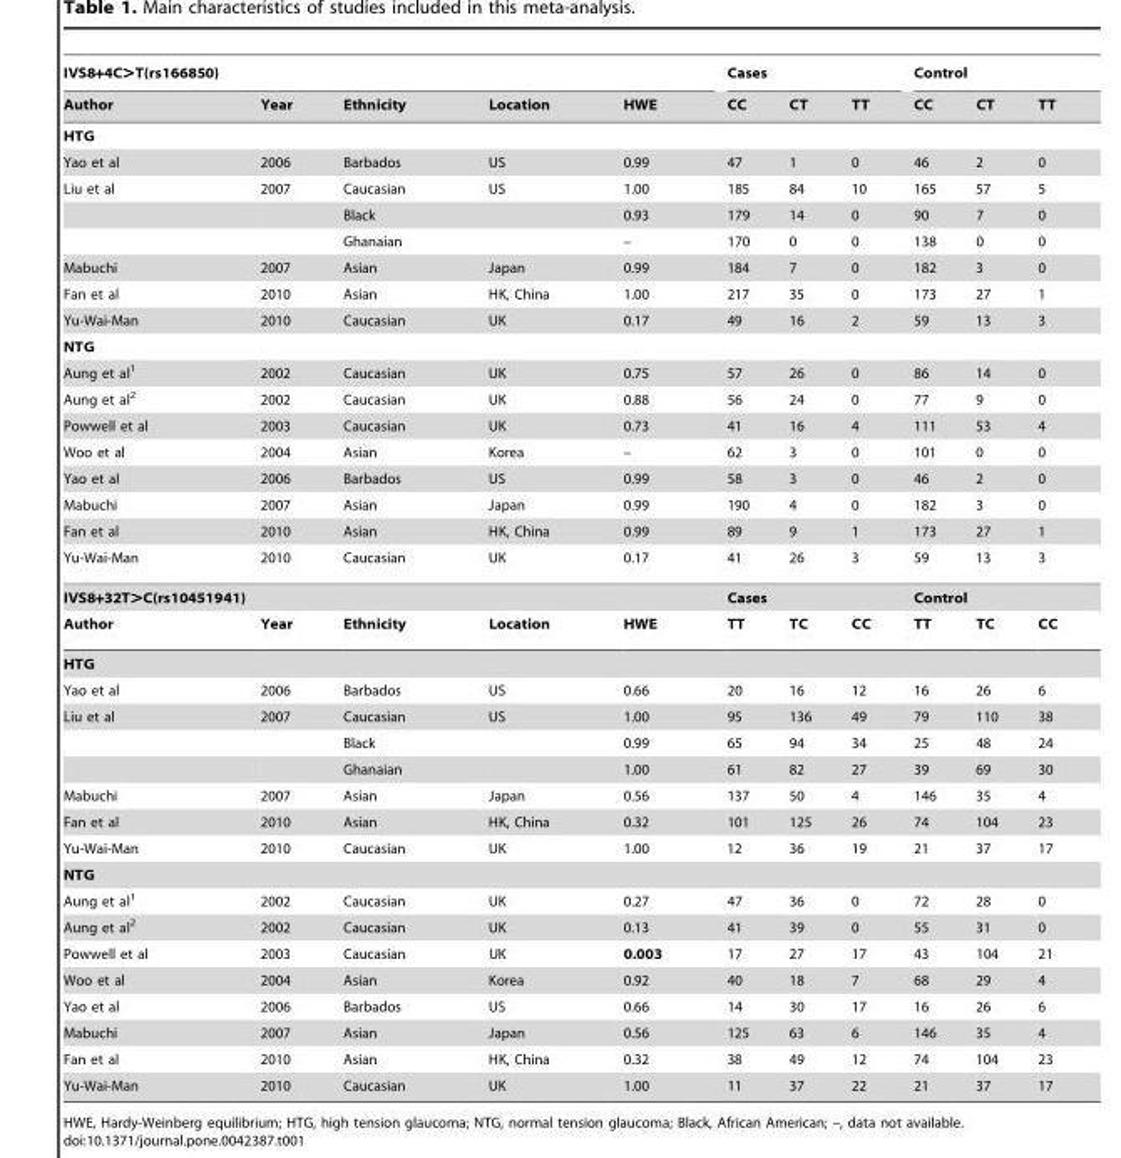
<table><thead><tr><td colspan="5">IVS8+4C&gt;T(rs166850)</td><td colspan="3">Cases</td><td colspan="3">Control</td></tr><tr><td>Author</td><td>Year</td><td>Ethnicity</td><td>Location</td><td>HWE</td><td>CC</td><td>CT</td><td>TT</td><td>CC</td><td>CT</td><td>TT</td></tr></thead><tbody><tr><td colspan="11">HTG</td></tr><tr><td>Yao et al</td><td>2006</td><td>Barbados</td><td>US</td><td>0.99</td><td>47</td><td>1</td><td>0</td><td>46</td><td>2</td><td>0</td></tr><tr><td rowspan="3">Liu et al</td><td>2007</td><td>Caucasian</td><td>US</td><td>1.00</td><td>185</td><td>84</td><td>10</td><td>165</td><td>57</td><td>5</td></tr><tr><td></td><td>Black</td><td></td><td>0.93</td><td>179</td><td>14</td><td>0</td><td>90</td><td>7</td><td>0</td></tr><tr><td></td><td>Ghanaian</td><td></td><td>–</td><td>170</td><td>0</td><td>0</td><td>138</td><td>0</td><td>0</td></tr><tr><td>Mabuchi</td><td>2007</td><td>Asian</td><td>Japan</td><td>0.99</td><td>184</td><td>7</td><td>0</td><td>182</td><td>3</td><td>0</td></tr><tr><td>Fan et al</td><td>2010</td><td>Asian</td><td>HK, China</td><td>1.00</td><td>217</td><td>35</td><td>0</td><td>173</td><td>27</td><td>1</td></tr><tr><td>Yu-Wai-Man</td><td>2010</td><td>Caucasian</td><td>UK</td><td>0.17</td><td>49</td><td>16</td><td>2</td><td>59</td><td>13</td><td>3</td></tr><tr><td colspan="11">NTG</td></tr><tr><td>Aung et al<sup>1</sup></td><td>2002</td><td>Caucasian</td><td>UK</td><td>0.75</td><td>57</td><td>26</td><td>0</td><td>86</td><td>14</td><td>0</td></tr><tr><td>Aung et al<sup>2</sup></td><td>2002</td><td>Caucasian</td><td>UK</td><td>0.88</td><td>56</td><td>24</td><td>0</td><td>77</td><td>9</td><td>0</td></tr><tr><td>Powwell et al</td><td>2003</td><td>Caucasian</td><td>UK</td><td>0.73</td><td>41</td><td>16</td><td>4</td><td>111</td><td>53</td><td>4</td></tr><tr><td>Woo et al</td><td>2004</td><td>Asian</td><td>Korea</td><td>–</td><td>62</td><td>3</td><td>0</td><td>101</td><td>0</td><td>0</td></tr><tr><td>Yao et al</td><td>2006</td><td>Barbados</td><td>US</td><td>0.99</td><td>58</td><td>3</td><td>0</td><td>46</td><td>2</td><td>0</td></tr><tr><td>Mabuchi</td><td>2007</td><td>Asian</td><td>Japan</td><td>0.99</td><td>190</td><td>4</td><td>0</td><td>182</td><td>3</td><td>0</td></tr><tr><td>Fan et al</td><td>2010</td><td>Asian</td><td>HK, China</td><td>0.99</td><td>89</td><td>9</td><td>1</td><td>173</td><td>27</td><td>1</td></tr><tr><td>Yu-Wai-Man</td><td>2010</td><td>Caucasian</td><td>UK</td><td>0.17</td><td>41</td><td>26</td><td>3</td><td>59</td><td>13</td><td>3</td></tr><tr><td colspan="5">IVS8+32T&gt;C(rs10451941)</td><td colspan="3">Cases</td><td colspan="3">Control</td></tr><tr><td>Author</td><td>Year</td><td>Ethnicity</td><td>Location</td><td>HWE</td><td>TT</td><td>TC</td><td>CC</td><td>TT</td><td>TC</td><td>CC</td></tr><tr><td colspan="11">HTG</td></tr><tr><td>Yao et al</td><td>2006</td><td>Barbados</td><td>US</td><td>0.66</td><td>20</td><td>16</td><td>12</td><td>16</td><td>26</td><td>6</td></tr><tr><td rowspan="3">Liu et al</td><td>2007</td><td>Caucasian</td><td>US</td><td>1.00</td><td>95</td><td>136</td><td>49</td><td>79</td><td>110</td><td>38</td></tr><tr><td></td><td>Black</td><td></td><td>0.99</td><td>65</td><td>94</td><td>34</td><td>25</td><td>48</td><td>24</td></tr><tr><td></td><td>Ghanaian</td><td></td><td>1.00</td><td>61</td><td>82</td><td>27</td><td>39</td><td>69</td><td>30</td></tr><tr><td>Mabuchi</td><td>2007</td><td>Asian</td><td>Japan</td><td>0.56</td><td>137</td><td>50</td><td>4</td><td>146</td><td>35</td><td>4</td></tr><tr><td>Fan et al</td><td>2010</td><td>Asian</td><td>HK, China</td><td>0.32</td><td>101</td><td>125</td><td>26</td><td>74</td><td>104</td><td>23</td></tr><tr><td>Yu-Wai-Man</td><td>2010</td><td>Caucasian</td><td>UK</td><td>1.00</td><td>12</td><td>36</td><td>19</td><td>21</td><td>37</td><td>17</td></tr><tr><td colspan="11">NTG</td></tr><tr><td>Aung et al<sup>1</sup></td><td>2002</td><td>Caucasian</td><td>UK</td><td>0.27</td><td>47</td><td>36</td><td>0</td><td>72</td><td>28</td><td>0</td></tr><tr><td>Aung et al<sup>2</sup></td><td>2002</td><td>Caucasian</td><td>UK</td><td>0.13</td><td>41</td><td>39</td><td>0</td><td>55</td><td>31</td><td>0</td></tr><tr><td>Powwell et al</td><td>2003</td><td>Caucasian</td><td>UK</td><td>0.003</td><td>17</td><td>27</td><td>17</td><td>43</td><td>104</td><td>21</td></tr><tr><td>Woo et al</td><td>2004</td><td>Asian</td><td>Korea</td><td>0.92</td><td>40</td><td>18</td><td>7</td><td>68</td><td>29</td><td>4</td></tr><tr><td>Yao et al</td><td>2006</td><td>Barbados</td><td>US</td><td>0.66</td><td>14</td><td>30</td><td>17</td><td>16</td><td>26</td><td>6</td></tr><tr><td>Mabuchi</td><td>2007</td><td>Asian</td><td>Japan</td><td>0.56</td><td>125</td><td>63</td><td>6</td><td>146</td><td>35</td><td>4</td></tr><tr><td>Fan et al</td><td>2010</td><td>Asian</td><td>HK, China</td><td>0.32</td><td>38</td><td>49</td><td>12</td><td>74</td><td>104</td><td>23</td></tr><tr><td>Yu-Wai-Man</td><td>2010</td><td>Caucasian</td><td>UK</td><td>1.00</td><td>11</td><td>37</td><td>22</td><td>21</td><td>37</td><td>17</td></tr></tbody></table>